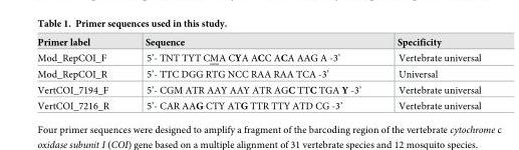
<table><thead><tr><td>Primer label</td><td>Sequence</td><td>Specificity</td></tr></thead><tbody><tr><td>Mod_RepCOI_F</td><td>5’- TNT TYT CMA CYA ACC ACA AAG A -3’</td><td>Vertebrate universal</td></tr><tr><td>Mod_RepCOI_R</td><td>5’- TTC DGG RTG NCC RAA RAA TCA -3’</td><td>Universal</td></tr><tr><td>VertCOI_7194_F</td><td>5’- CGM ATR AAY AAY ATR AGC TTC TGA Y -3’</td><td>Vertebrate universal</td></tr><tr><td>VertCOI_7216_R</td><td>5’- CAR AAG CTY ATG TTR TTY ATD CG -3’</td><td>Vertebrate universal</td></tr></tbody></table>